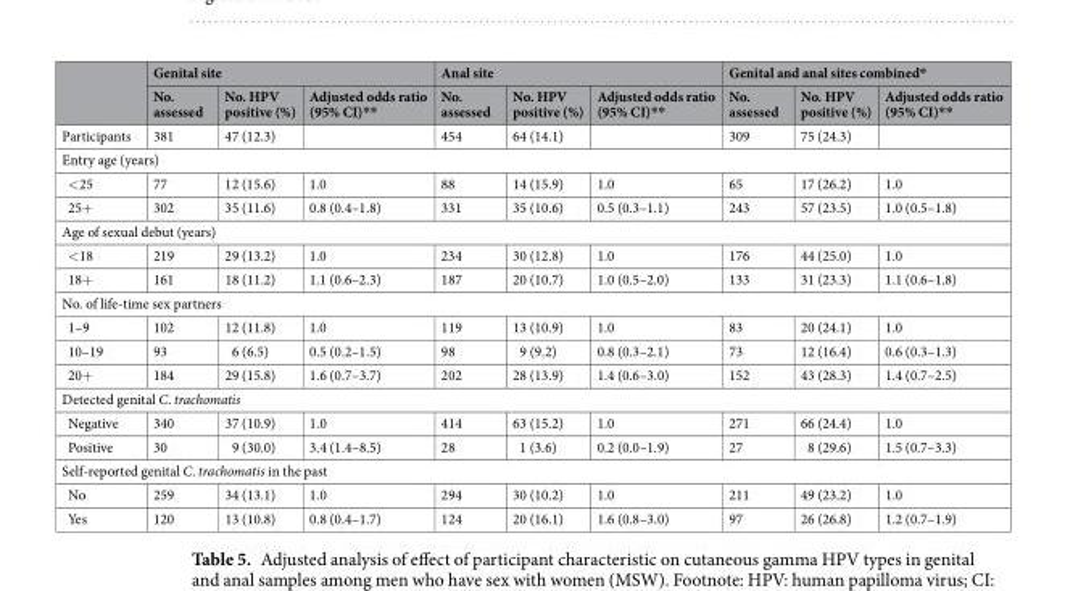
<table><thead><tr><td rowspan="2"></td><td colspan="3">Genital site</td><td colspan="3">Anal site</td><td colspan="3">Genital and anal sites combined*</td></tr><tr><td>No. assessed</td><td>No. HPV positive (%)</td><td>Adjusted odds ratio (95% CI)**</td><td>No. assessed</td><td>No. HPV positive (%)</td><td>Adjusted odds ratio (95% CI)**</td><td>No. assessed</td><td>No. HPV positive (%)</td><td>Adjusted odds ratio (95% CI)**</td></tr></thead><tbody><tr><td>Participants</td><td>381</td><td>47 (12.3)</td><td></td><td>454</td><td>64 (14.1)</td><td></td><td>309</td><td>75 (24.3)</td><td></td></tr><tr><td colspan="10">Entry age (years)</td></tr><tr><td>&lt;25</td><td>77</td><td>12 (15.6)</td><td>1.0</td><td>88</td><td>14 (15.9)</td><td>1.0</td><td>65</td><td>17 (26.2)</td><td>1.0</td></tr><tr><td>25+</td><td>302</td><td>35 (11.6)</td><td>0.8 (0.4–1.8)</td><td>331</td><td>35 (10.6)</td><td>0.5 (0.3–1.1)</td><td>243</td><td>57 (23.5)</td><td>1.0 (0.5–1.8)</td></tr><tr><td colspan="10">Age of sexual debut (years)</td></tr><tr><td>&lt;18</td><td>219</td><td>29 (13.2)</td><td>1.0</td><td>234</td><td>30 (12.8)</td><td>1.0</td><td>176</td><td>44 (25.0)</td><td>1.0</td></tr><tr><td>18+</td><td>161</td><td>18 (11.2)</td><td>1.1 (0.6–2.3)</td><td>187</td><td>20 (10.7)</td><td>1.0 (0.5–2.0)</td><td>133</td><td>31 (23.3)</td><td>1.1 (0.6–1.8)</td></tr><tr><td colspan="10">No. of life-time sex partners</td></tr><tr><td>1–9</td><td>102</td><td>12 (11.8)</td><td>1.0</td><td>119</td><td>13 (10.9)</td><td>1.0</td><td>83</td><td>20 (24.1)</td><td>1.0</td></tr><tr><td>10–19</td><td>93</td><td>6 (6.5)</td><td>0.5 (0.2–1.5)</td><td>98</td><td>9 (9.2)</td><td>0.8 (0.3–2.1)</td><td>73</td><td>12 (16.4)</td><td>0.6 (0.3–1.3)</td></tr><tr><td>20+</td><td>184</td><td>29 (15.8)</td><td>1.6 (0.7–3.7)</td><td>202</td><td>28 (13.9)</td><td>1.4 (0.6–3.0)</td><td>152</td><td>43 (28.3)</td><td>1.4 (0.7–2.5)</td></tr><tr><td colspan="10">Detected genital C. trachomatis</td></tr><tr><td>Negative</td><td>340</td><td>37 (10.9)</td><td>1.0</td><td>414</td><td>63 (15.2)</td><td>1.0</td><td>271</td><td>66 (24.4)</td><td>1.0</td></tr><tr><td>Positive</td><td>30</td><td>9 (30.0)</td><td>3.4 (1.4–8.5)</td><td>28</td><td>1 (3.6)</td><td>0.2 (0.0–1.9)</td><td>27</td><td>8 (29.6)</td><td>1.5 (0.7–3.3)</td></tr><tr><td colspan="10">Self-reported genital C. trachomatis in the past</td></tr><tr><td>No</td><td>259</td><td>34 (13.1)</td><td>1.0</td><td>294</td><td>30 (10.2)</td><td>1.0</td><td>211</td><td>49 (23.2)</td><td>1.0</td></tr><tr><td>Yes</td><td>120</td><td>13 (10.8)</td><td>0.8 (0.4–1.7)</td><td>124</td><td>20 (16.1)</td><td>1.6 (0.8–3.0)</td><td>97</td><td>26 (26.8)</td><td>1.2 (0.7–1.9)</td></tr></tbody></table>